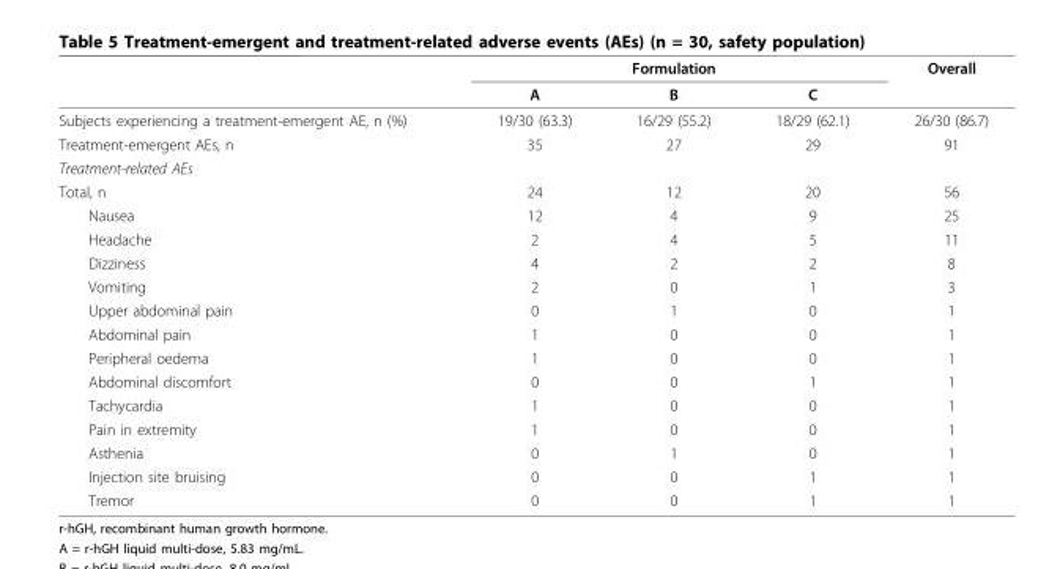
<table><thead><tr><td rowspan="2"></td><td colspan="3">Formulation</td><td rowspan="2">Overall</td></tr><tr><td>A</td><td>B</td><td>C</td></tr></thead><tbody><tr><td>Subjects experiencing a treatment-emergent AE, n (%)</td><td>19/30 (63.3)</td><td>16/29 (55.2)</td><td>18/29 (62.1)</td><td>26/30 (86.7)</td></tr><tr><td>Treatment-emergent AEs, n</td><td>35</td><td>27</td><td>29</td><td>91</td></tr><tr><td colspan="5">Treatment-related AEs</td></tr><tr><td>Total, n</td><td>24</td><td>12</td><td>20</td><td>56</td></tr><tr><td>Nausea</td><td>12</td><td>4</td><td>9</td><td>25</td></tr><tr><td>Headache</td><td>2</td><td>4</td><td>5</td><td>11</td></tr><tr><td>Dizziness</td><td>4</td><td>2</td><td>2</td><td>8</td></tr><tr><td>Vomiting</td><td>2</td><td>0</td><td>1</td><td>3</td></tr><tr><td>Upper abdominal pain</td><td>0</td><td>1</td><td>0</td><td>1</td></tr><tr><td>Abdominal pain</td><td>1</td><td>0</td><td>0</td><td>1</td></tr><tr><td>Peripheral oedema</td><td>1</td><td>0</td><td>0</td><td>1</td></tr><tr><td>Abdominal discomfort</td><td>0</td><td>0</td><td>1</td><td>1</td></tr><tr><td>Tachycardia</td><td>1</td><td>0</td><td>0</td><td>1</td></tr><tr><td>Pain in extremity</td><td>1</td><td>0</td><td>0</td><td>1</td></tr><tr><td>Asthenia</td><td>0</td><td>1</td><td>0</td><td>1</td></tr><tr><td>Injection site bruising</td><td>0</td><td>0</td><td>1</td><td>1</td></tr><tr><td>Tremor</td><td>0</td><td>0</td><td>1</td><td>1</td></tr></tbody></table>